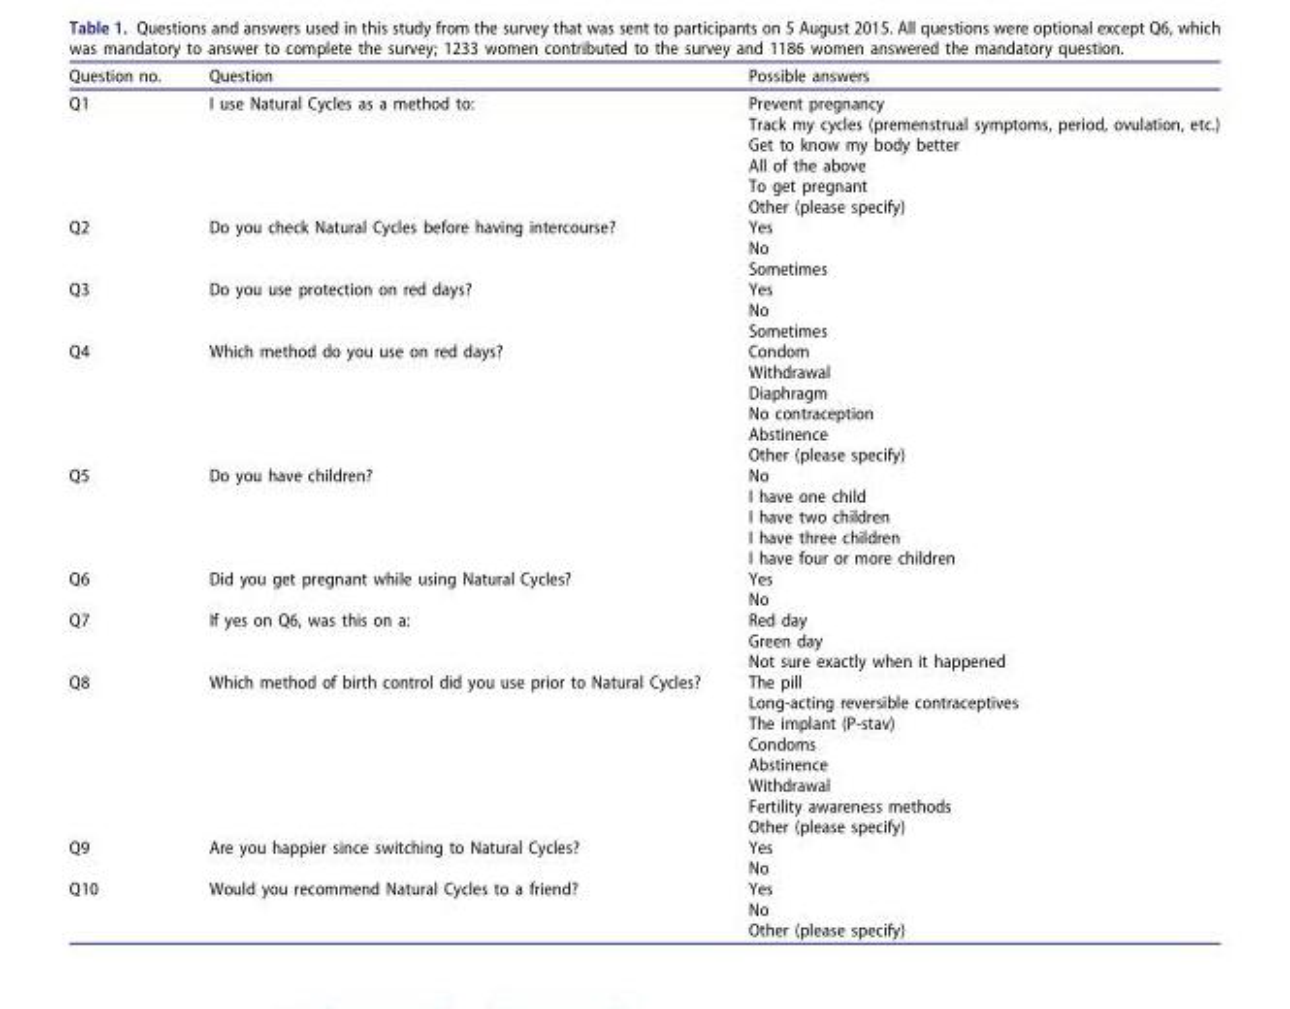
<table><thead><tr><td>Question no.</td><td>Question</td><td>Possible answers</td></tr></thead><tbody><tr><td rowspan="6">Q1</td><td rowspan="6">I use Natural Cycles as a method to:</td><td>Prevent pregnancy</td></tr><tr><td>Track my cycles (premenstrual symptoms, period, ovulation, etc.)</td></tr><tr><td>Get to know my body better</td></tr><tr><td>All of the above</td></tr><tr><td>To get pregnant</td></tr><tr><td>Other (please specify)</td></tr><tr><td rowspan="3">Q2</td><td rowspan="3">Do you check Natural Cycles before having intercourse?</td><td>Yes</td></tr><tr><td>No</td></tr><tr><td>Sometimes</td></tr><tr><td rowspan="3">Q3</td><td rowspan="3">Do you use protection on red days?</td><td>Yes</td></tr><tr><td>No</td></tr><tr><td>Sometimes</td></tr><tr><td rowspan="6">Q4</td><td rowspan="6">Which method do you use on red days?</td><td>Condom</td></tr><tr><td>Withdrawal</td></tr><tr><td>Diaphragm</td></tr><tr><td>No contraception</td></tr><tr><td>Abstinence</td></tr><tr><td>Other (please specify)</td></tr><tr><td rowspan="5">Q5</td><td rowspan="5">Do you have children?</td><td>No</td></tr><tr><td>I have one child</td></tr><tr><td>I have two children</td></tr><tr><td>I have three children</td></tr><tr><td>I have four or more children</td></tr><tr><td rowspan="2">Q6</td><td rowspan="2">Did you get pregnant while using Natural Cycles?</td><td>Yes</td></tr><tr><td>No</td></tr><tr><td rowspan="3">Q7</td><td rowspan="3">If yes on Q6, was this on a:</td><td>Red day</td></tr><tr><td>Green day</td></tr><tr><td>Not sure exactly when it happened</td></tr><tr><td rowspan="8">Q8</td><td rowspan="8">Which method of birth control did you use prior to Natural Cycles?</td><td>The pill</td></tr><tr><td>Long-acting reversible contraceptives</td></tr><tr><td>The implant (P-stav)</td></tr><tr><td>Condoms</td></tr><tr><td>Abstinence</td></tr><tr><td>Withdrawal</td></tr><tr><td>Fertility awareness methods</td></tr><tr><td>Other (please specify)</td></tr><tr><td rowspan="2">Q9</td><td rowspan="2">Are you happier since switching to Natural Cycles?</td><td>Yes</td></tr><tr><td>No</td></tr><tr><td rowspan="3">Q10</td><td rowspan="3">Would you recommend Natural Cycles to a friend?</td><td>Yes</td></tr><tr><td>No</td></tr><tr><td>Other (please specify)</td></tr></tbody></table>